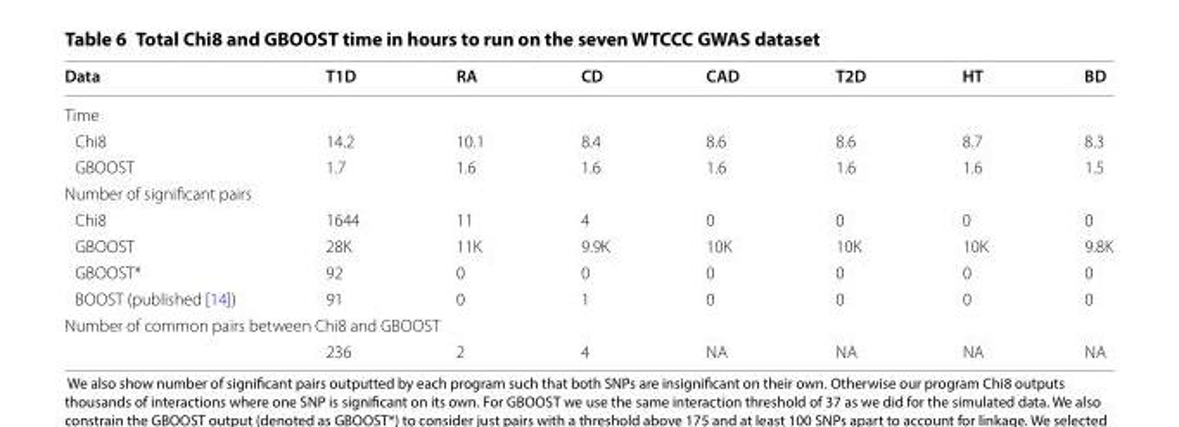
<table><thead><tr><td>Data</td><td>T1D</td><td>RA</td><td>CD</td><td>CAD</td><td>T2D</td><td>HT</td><td>BD</td></tr></thead><tbody><tr><td colspan="8">Time</td></tr><tr><td>Chi8</td><td>14.2</td><td>10.1</td><td>8.4</td><td>8.6</td><td>8.6</td><td>8.7</td><td>8.3</td></tr><tr><td>GBOOST</td><td>1.7</td><td>1.6</td><td>1.6</td><td>1.6</td><td>1.6</td><td>1.6</td><td>1.5</td></tr><tr><td colspan="8">Number of significant pairs</td></tr><tr><td>Chi8</td><td>1644</td><td>11</td><td>4</td><td>0</td><td>0</td><td>0</td><td>0</td></tr><tr><td>GBOOST</td><td>28K</td><td>11K</td><td>9.9K</td><td>10K</td><td>10K</td><td>10K</td><td>9.8K</td></tr><tr><td>GBOOST*</td><td>92</td><td>0</td><td>0</td><td>0</td><td>0</td><td>0</td><td>0</td></tr><tr><td>BOOST (published [14])</td><td>91</td><td>0</td><td>1</td><td>0</td><td>0</td><td>0</td><td>0</td></tr><tr><td colspan="8">Number of common pairs between Chi8 and GBOOST</td></tr><tr><td></td><td>236</td><td>2</td><td>4</td><td>NA</td><td>NA</td><td>NA</td><td>NA</td></tr></tbody></table>